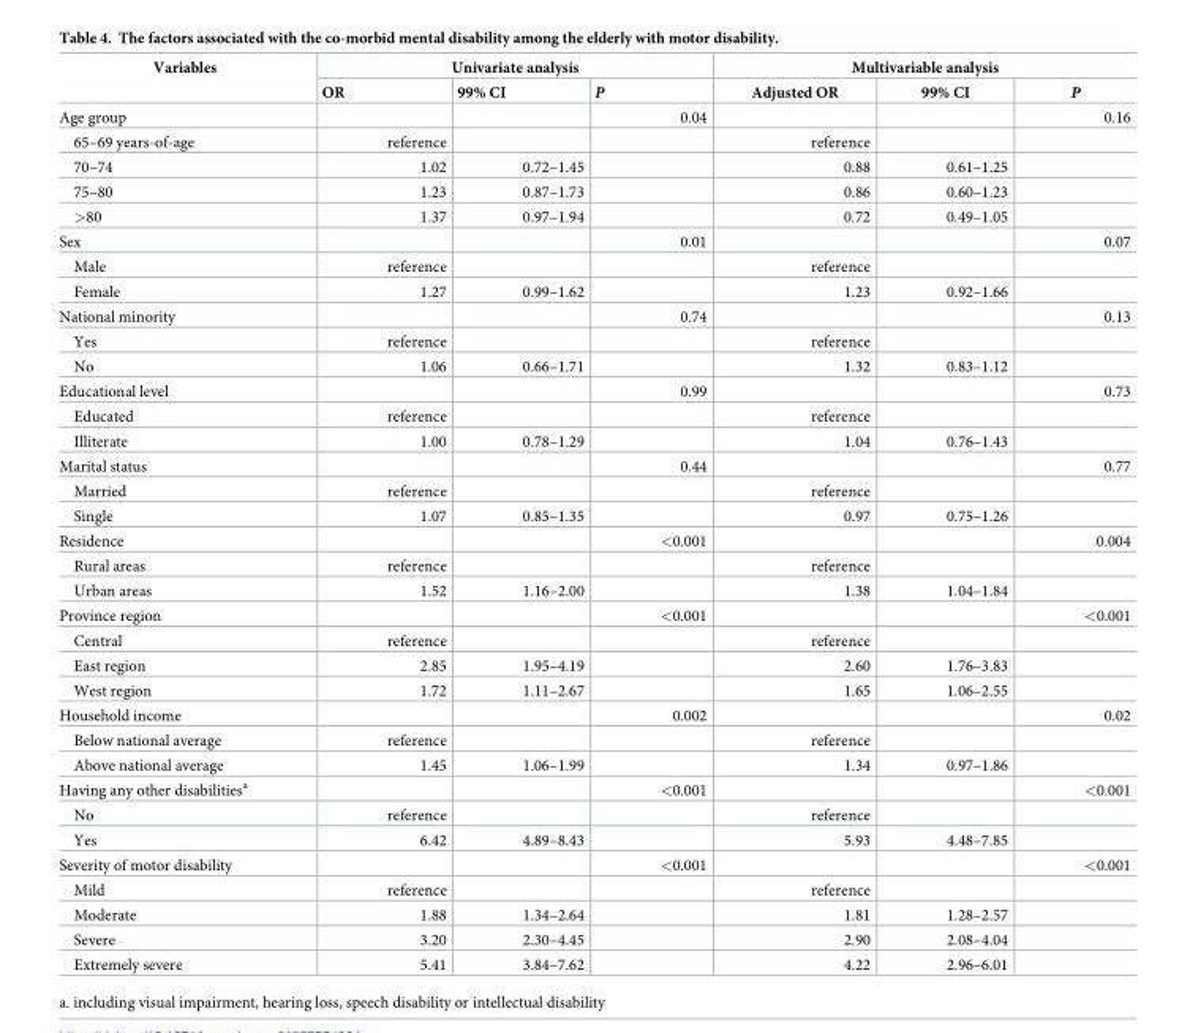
<table><thead><tr><td rowspan="2">Variables</td><td colspan="3">Univariate analysis</td><td colspan="3">Multivariable analysis</td></tr><tr><td>OR</td><td>99% CI</td><td>P</td><td>Adjusted OR</td><td>99% CI</td><td>P</td></tr></thead><tbody><tr><td>Age group</td><td></td><td></td><td>0.04</td><td></td><td></td><td>0.16</td></tr><tr><td>65–69 years-of-age</td><td>reference</td><td></td><td></td><td>reference</td><td></td><td></td></tr><tr><td>70–74</td><td>1.02</td><td>0.72–1.45</td><td></td><td>0.88</td><td>0.61–1.25</td><td></td></tr><tr><td>75–80</td><td>1.23</td><td>0.87–1.73</td><td></td><td>0.86</td><td>0.60–1.23</td><td></td></tr><tr><td>&gt;80</td><td>1.37</td><td>0.97–1.94</td><td></td><td>0.72</td><td>0.49–1.05</td><td></td></tr><tr><td>Sex</td><td></td><td></td><td>0.01</td><td></td><td></td><td>0.07</td></tr><tr><td>Male</td><td>reference</td><td></td><td></td><td>reference</td><td></td><td></td></tr><tr><td>Female</td><td>1.27</td><td>0.99–1.62</td><td></td><td>1.23</td><td>0.92–1.66</td><td></td></tr><tr><td>National minority</td><td></td><td></td><td>0.74</td><td></td><td></td><td>0.13</td></tr><tr><td>Yes</td><td>reference</td><td></td><td></td><td>reference</td><td></td><td></td></tr><tr><td>No</td><td>1.06</td><td>0.66–1.71</td><td></td><td>1.32</td><td>0.83–1.12</td><td></td></tr><tr><td>Educational level</td><td></td><td></td><td>0.99</td><td></td><td></td><td>0.73</td></tr><tr><td>Educated</td><td>reference</td><td></td><td></td><td>reference</td><td></td><td></td></tr><tr><td>Illiterate</td><td>1.00</td><td>0.78–1.29</td><td></td><td>1.04</td><td>0.76–1.43</td><td></td></tr><tr><td>Marital status</td><td></td><td></td><td>0.44</td><td></td><td></td><td>0.77</td></tr><tr><td>Married</td><td>reference</td><td></td><td></td><td>reference</td><td></td><td></td></tr><tr><td>Single</td><td>1.07</td><td>0.85–1.35</td><td></td><td>0.97</td><td>0.75–1.26</td><td></td></tr><tr><td>Residence</td><td></td><td></td><td>&lt;0.001</td><td></td><td></td><td>0.004</td></tr><tr><td>Rural areas</td><td>reference</td><td></td><td></td><td>reference</td><td></td><td></td></tr><tr><td>Urban areas</td><td>1.52</td><td>1.16–2.00</td><td></td><td>1.38</td><td>1.04–1.84</td><td></td></tr><tr><td>Province region</td><td></td><td></td><td>&lt;0.001</td><td></td><td></td><td>&lt;0.001</td></tr><tr><td>Central</td><td>reference</td><td></td><td></td><td>reference</td><td></td><td></td></tr><tr><td>East region</td><td>2.85</td><td>1.95–4.19</td><td></td><td>2.60</td><td>1.76–3.83</td><td></td></tr><tr><td>West region</td><td>1.72</td><td>1.11–2.67</td><td></td><td>1.65</td><td>1.06–2.55</td><td></td></tr><tr><td>Household income</td><td></td><td></td><td>0.002</td><td></td><td></td><td>0.02</td></tr><tr><td>Below national average</td><td>reference</td><td></td><td></td><td>reference</td><td></td><td></td></tr><tr><td>Above national average</td><td>1.45</td><td>1.06–1.99</td><td></td><td>1.34</td><td>0.97–1.86</td><td></td></tr><tr><td>Having any other disabilities<sup>a</sup></td><td></td><td></td><td>&lt;0.001</td><td></td><td></td><td>&lt;0.001</td></tr><tr><td>No</td><td>reference</td><td></td><td></td><td>reference</td><td></td><td></td></tr><tr><td>Yes</td><td>6.42</td><td>4.89–8.43</td><td></td><td>5.93</td><td>4.48–7.85</td><td></td></tr><tr><td>Severity of motor disability</td><td></td><td></td><td>&lt;0.001</td><td></td><td></td><td>&lt;0.001</td></tr><tr><td>Mild</td><td>reference</td><td></td><td></td><td>reference</td><td></td><td></td></tr><tr><td>Moderate</td><td>1.88</td><td>1.34–2.64</td><td></td><td>1.81</td><td>1.28–2.57</td><td></td></tr><tr><td>Severe</td><td>3.20</td><td>2.30–4.45</td><td></td><td>2.90</td><td>2.08–4.04</td><td></td></tr><tr><td>Extremely severe</td><td>5.41</td><td>3.84–7.62</td><td></td><td>4.22</td><td>2.96–6.01</td><td></td></tr></tbody></table>